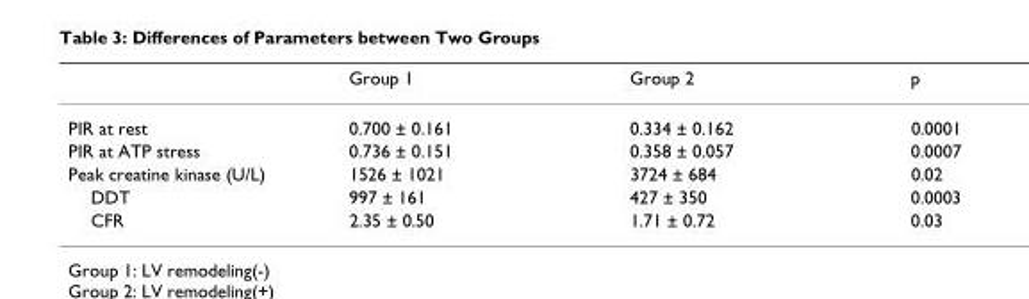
<table><thead><tr><td></td><td>Group 1</td><td>Group 2</td><td>p</td></tr></thead><tbody><tr><td>PIR at rest</td><td>0.700 ± 0.161</td><td>0.334 ± 0.162</td><td>0.0001</td></tr><tr><td>PIR at ATP stress</td><td>0.736 ± 0.151</td><td>0.358 ± 0.057</td><td>0.0007</td></tr><tr><td>Peak creatine kinase (U/L)</td><td>1526 ± 1021</td><td>3724 ± 684</td><td>0.02</td></tr><tr><td>DDT</td><td>997 ± 161</td><td>427 ± 350</td><td>0.0003</td></tr><tr><td>CFR</td><td>2.35 ± 0.50</td><td>1.71 ± 0.72</td><td>0.03</td></tr></tbody></table>